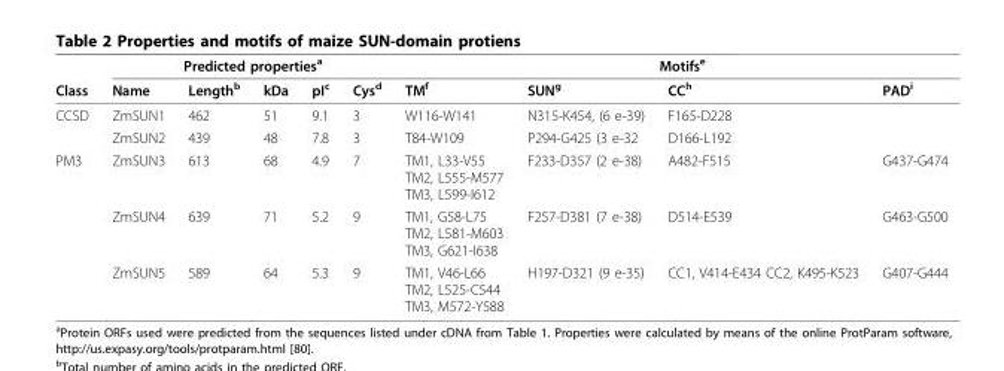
<table><thead><tr><td rowspan="2">Class</td><td colspan="5">Predicted properties<sup>a</sup></td><td colspan="4">Motifs<sup>e</sup></td></tr><tr><td>Name</td><td>Length<sup>b</sup></td><td>kDa</td><td>pI<sup>c</sup></td><td>Cys<sup>d</sup></td><td>TM<sup>f</sup></td><td>SUN<sup>g</sup></td><td>CC<sup>h</sup></td><td>PAD<sup>i</sup></td></tr></thead><tbody><tr><td rowspan="2">CCSD</td><td>ZmSUN1</td><td>462</td><td>51</td><td>9.1</td><td>3</td><td>W116-W141</td><td>N315-K454, (6 e-39)</td><td>F165-D228</td><td></td></tr><tr><td>ZmSUN2</td><td>439</td><td>48</td><td>7.8</td><td>3</td><td>T84-W109</td><td>P294-G425 (3 e-32</td><td>D166-L192</td><td></td></tr><tr><td rowspan="3">PM3</td><td>ZmSUN3</td><td>613</td><td>68</td><td>4.9</td><td>7</td><td>TM1, L33-V55 TM2, L555-M577 TM3, L599-I612</td><td>F233-D357 (2 e-38)</td><td>A482-F515</td><td>G437-G474</td></tr><tr><td>ZmSUN4</td><td>639</td><td>71</td><td>5.2</td><td>9</td><td>TM1, G58-L75 TM2, L581-M603 TM3, G621-I638</td><td>F257-D381 (7 e-38)</td><td>D514-E539</td><td>G463-G500</td></tr><tr><td>ZmSUN5</td><td>589</td><td>64</td><td>5.3</td><td>9</td><td>TM1, V46-L66 TM2, L525-C544 TM3, M572-Y588</td><td>H197-D321 (9 e-35)</td><td>CC1, V414-E434 CC2, K495-K523</td><td>G407-G444</td></tr></tbody></table>